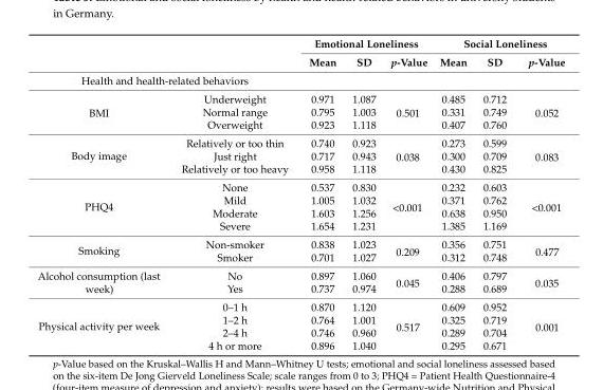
<table><thead><tr><td rowspan="2"></td><td rowspan="2"></td><td colspan="3">Emotional Loneliness</td><td colspan="3">Social Loneliness</td></tr><tr><td>Mean</td><td>SD</td><td>p-Value</td><td>Mean</td><td>SD</td><td>p-Value</td></tr></thead><tbody><tr><td colspan="8">Health and health-related behaviors</td></tr><tr><td rowspan="3">BMI</td><td>Underweight</td><td>0.971</td><td>1.087</td><td rowspan="3">0.501</td><td>0.485</td><td>0.712</td><td rowspan="3">0.052</td></tr><tr><td>Normal range</td><td>0.795</td><td>1.003</td><td>0.331</td><td>0.749</td></tr><tr><td>Overweight</td><td>0.923</td><td>1.118</td><td>0.407</td><td>0.760</td></tr><tr><td rowspan="3">Body image</td><td>Relatively or too thin</td><td>0.740</td><td>0.923</td><td rowspan="3">0.038</td><td>0.273</td><td>0.599</td><td rowspan="3">0.083</td></tr><tr><td>Just right</td><td>0.717</td><td>0.943</td><td>0.300</td><td>0.709</td></tr><tr><td>Relatively or too heavy</td><td>0.958</td><td>1.118</td><td>0.430</td><td>0.825</td></tr><tr><td rowspan="4">PHQ4</td><td>None</td><td>0.537</td><td>0.830</td><td rowspan="4">&lt;0.001</td><td>0.232</td><td>0.603</td><td rowspan="4">&lt;0.001</td></tr><tr><td>Mild</td><td>1.005</td><td>1.032</td><td>0.371</td><td>0.762</td></tr><tr><td>Moderate</td><td>1.603</td><td>1.256</td><td>0.638</td><td>0.950</td></tr><tr><td>Severe</td><td>1.654</td><td>1.231</td><td>1.385</td><td>1.169</td></tr><tr><td rowspan="2">Smoking</td><td>Non-smoker</td><td>0.838</td><td>1.023</td><td rowspan="2">0.209</td><td>0.356</td><td>0.751</td><td rowspan="2">0.477</td></tr><tr><td>Smoker</td><td>0.701</td><td>1.027</td><td>0.312</td><td>0.748</td></tr><tr><td rowspan="2">Alcohol consumption (last week)</td><td>No</td><td>0.897</td><td>1.060</td><td rowspan="2">0.045</td><td>0.406</td><td>0.797</td><td rowspan="2">0.035</td></tr><tr><td>Yes</td><td>0.737</td><td>0.974</td><td>0.288</td><td>0.689</td></tr><tr><td rowspan="4">Physical activity per week</td><td>0–1 h</td><td>0.870</td><td>1.120</td><td rowspan="4">0.517</td><td>0.609</td><td>0.952</td><td rowspan="4">0.001</td></tr><tr><td>1–2 h</td><td>0.764</td><td>1.001</td><td>0.325</td><td>0.719</td></tr><tr><td>2–4 h</td><td>0.746</td><td>0.960</td><td>0.289</td><td>0.704</td></tr><tr><td>4 h or more</td><td>0.896</td><td>1.040</td><td>0.295</td><td>0.671</td></tr></tbody></table>